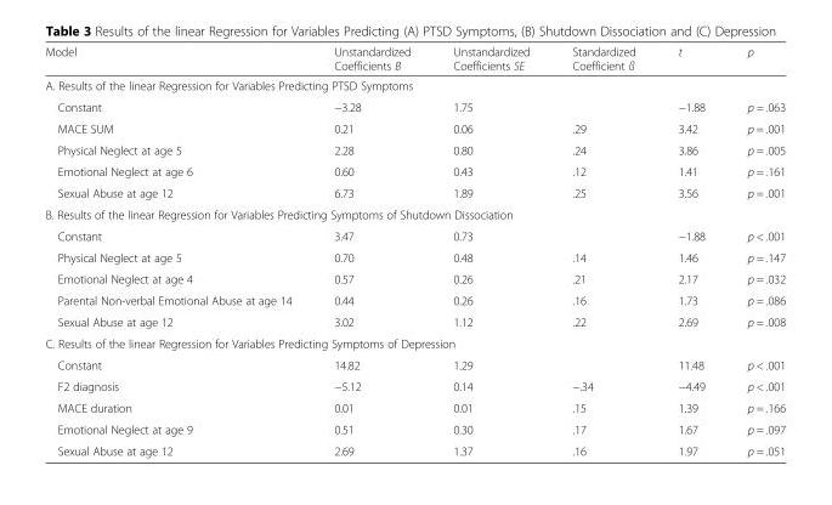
<table><thead><tr><td>Model</td><td>Unstandardized Coefficients B</td><td>Unstandardized Coefficients SE</td><td>Standardized Coefficient ß</td><td>t</td><td>p</td></tr></thead><tbody><tr><td colspan="6">A. Results of the linear Regression for Variables Predicting PTSD Symptoms</td></tr><tr><td>Constant</td><td>−3.28</td><td>1.75</td><td></td><td>−1.88</td><td>p = .063</td></tr><tr><td>MACE SUM</td><td>0.21</td><td>0.06</td><td>.29</td><td>3.42</td><td>p = .001</td></tr><tr><td>Physical Neglect at age 5</td><td>2.28</td><td>0.80</td><td>.24</td><td>3.86</td><td>p = .005</td></tr><tr><td>Emotional Neglect at age 6</td><td>0.60</td><td>0.43</td><td>.12</td><td>1.41</td><td>p = .161</td></tr><tr><td>Sexual Abuse at age 12</td><td>6.73</td><td>1.89</td><td>.25</td><td>3.56</td><td>p = .001</td></tr><tr><td colspan="6">B. Results of the linear Regression for Variables Predicting Symptoms of Shutdown Dissociation</td></tr><tr><td>Constant</td><td>3.47</td><td>0.73</td><td></td><td>−1.88</td><td>p &lt; .001</td></tr><tr><td>Physical Neglect at age 5</td><td>0.70</td><td>0.48</td><td>.14</td><td>1.46</td><td>p = .147</td></tr><tr><td>Emotional Neglect at age 4</td><td>0.57</td><td>0.26</td><td>.21</td><td>2.17</td><td>p = .032</td></tr><tr><td>Parental Non-verbal Emotional Abuse at age 14</td><td>0.44</td><td>0.26</td><td>.16</td><td>1.73</td><td>p = .086</td></tr><tr><td>Sexual Abuse at age 12</td><td>3.02</td><td>1.12</td><td>.22</td><td>2.69</td><td>p = .008</td></tr><tr><td colspan="6">C. Results of the linear Regression for Variables Predicting Symptoms of Depression</td></tr><tr><td>Constant</td><td>14.82</td><td>1.29</td><td></td><td>11.48</td><td>p &lt; .001</td></tr><tr><td>F2 diagnosis</td><td>−5.12</td><td>0.14</td><td>−.34</td><td>−4.49</td><td>p &lt; .001</td></tr><tr><td>MACE duration</td><td>0.01</td><td>0.01</td><td>.15</td><td>1.39</td><td>p = .166</td></tr><tr><td>Emotional Neglect at age 9</td><td>0.51</td><td>0.30</td><td>.17</td><td>1.67</td><td>p = .097</td></tr><tr><td>Sexual Abuse at age 12</td><td>2.69</td><td>1.37</td><td>.16</td><td>1.97</td><td>p = .051</td></tr></tbody></table>